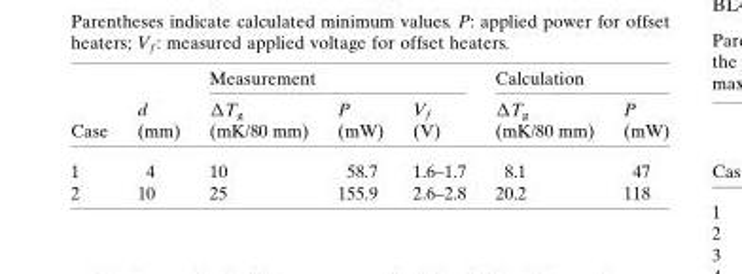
<table><thead><tr><td rowspan="2">Case</td><td rowspan="2">d (mm)</td><td colspan="3">Measurement</td><td colspan="2">Calculation</td></tr><tr><td>ΔT<sub>g</sub> (mK/80 mm)</td><td>P (mW)</td><td>V<sub>f</sub> (V)</td><td>ΔT<sub>g</sub> (mK/80 mm)</td><td>P (mW)</td></tr></thead><tbody><tr><td>1</td><td>4</td><td>10</td><td>58.7</td><td>1.6–1.7</td><td>8.1</td><td>47</td></tr><tr><td>2</td><td>10</td><td>25</td><td>155.9</td><td>2.6–2.8</td><td>20.2</td><td>118</td></tr></tbody></table>